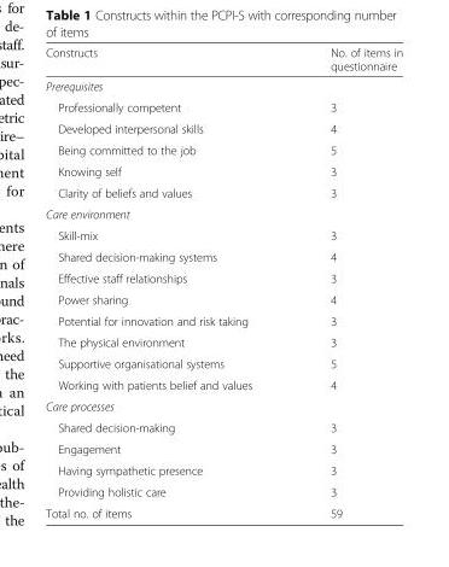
<table><thead><tr><td>Constructs</td><td>No. of items in questionnaire</td></tr></thead><tbody><tr><td colspan="2">Prerequisites</td></tr><tr><td>Professionally competent</td><td>3</td></tr><tr><td>Developed interpersonal skills</td><td>4</td></tr><tr><td>Being committed to the job</td><td>5</td></tr><tr><td>Knowing self</td><td>3</td></tr><tr><td>Clarity of beliefs and values</td><td>3</td></tr><tr><td colspan="2">Care environment</td></tr><tr><td>Skill-mix</td><td>3</td></tr><tr><td>Shared decision-making systems</td><td>4</td></tr><tr><td>Effective staff relationships</td><td>3</td></tr><tr><td>Power sharing</td><td>4</td></tr><tr><td>Potential for innovation and risk taking</td><td>3</td></tr><tr><td>The physical environment</td><td>3</td></tr><tr><td>Supportive organisational systems</td><td>5</td></tr><tr><td>Working with patients belief and values</td><td>4</td></tr><tr><td colspan="2">Care processes</td></tr><tr><td>Shared decision-making</td><td>3</td></tr><tr><td>Engagement</td><td>3</td></tr><tr><td>Having sympathetic presence</td><td>3</td></tr><tr><td>Providing holistic care</td><td>3</td></tr><tr><td>Total no. of items</td><td>59</td></tr></tbody></table>